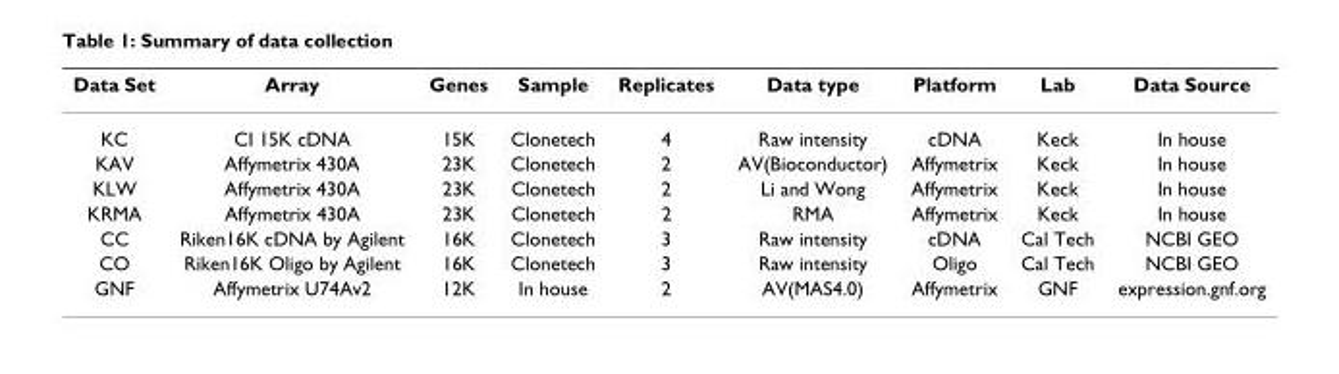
<table><thead><tr><td>Data Set</td><td>Array</td><td>Genes</td><td>Sample</td><td>Replicates</td><td>Data type</td><td>Platform</td><td>Lab</td><td>Data Source</td></tr></thead><tbody><tr><td>KC</td><td>CI 15K cDNA</td><td>15K</td><td>Clonetech</td><td>4</td><td>Raw intensity</td><td>cDNA</td><td>Keck</td><td>In house</td></tr><tr><td>KAV</td><td>Affymetrix 430A</td><td>23K</td><td>Clonetech</td><td>2</td><td>AV(Bioconductor)</td><td>Affymetrix</td><td>Keck</td><td>In house</td></tr><tr><td>KLW</td><td>Affymetrix 430A</td><td>23K</td><td>Clonetech</td><td>2</td><td>Li and Wong</td><td>Affymetrix</td><td>Keck</td><td>In house</td></tr><tr><td>KRMA</td><td>Affymetrix 430A</td><td>23K</td><td>Clonetech</td><td>2</td><td>RMA</td><td>Affymetrix</td><td>Keck</td><td>In house</td></tr><tr><td>CC</td><td>Riken16K cDNA by Agilent</td><td>16K</td><td>Clonetech</td><td>3</td><td>Raw intensity</td><td>cDNA</td><td>Cal Tech</td><td>NCBI GEO</td></tr><tr><td>CO</td><td>Riken16K Oligo by Agilent</td><td>16K</td><td>Clonetech</td><td>3</td><td>Raw intensity</td><td>Oligo</td><td>Cal Tech</td><td>NCBI GEO</td></tr><tr><td>GNF</td><td>Affymetrix U74Av2</td><td>12K</td><td>In house</td><td>2</td><td>AV(MAS4.0)</td><td>Affymetrix</td><td>GNF</td><td>expression.gnf.org</td></tr></tbody></table>